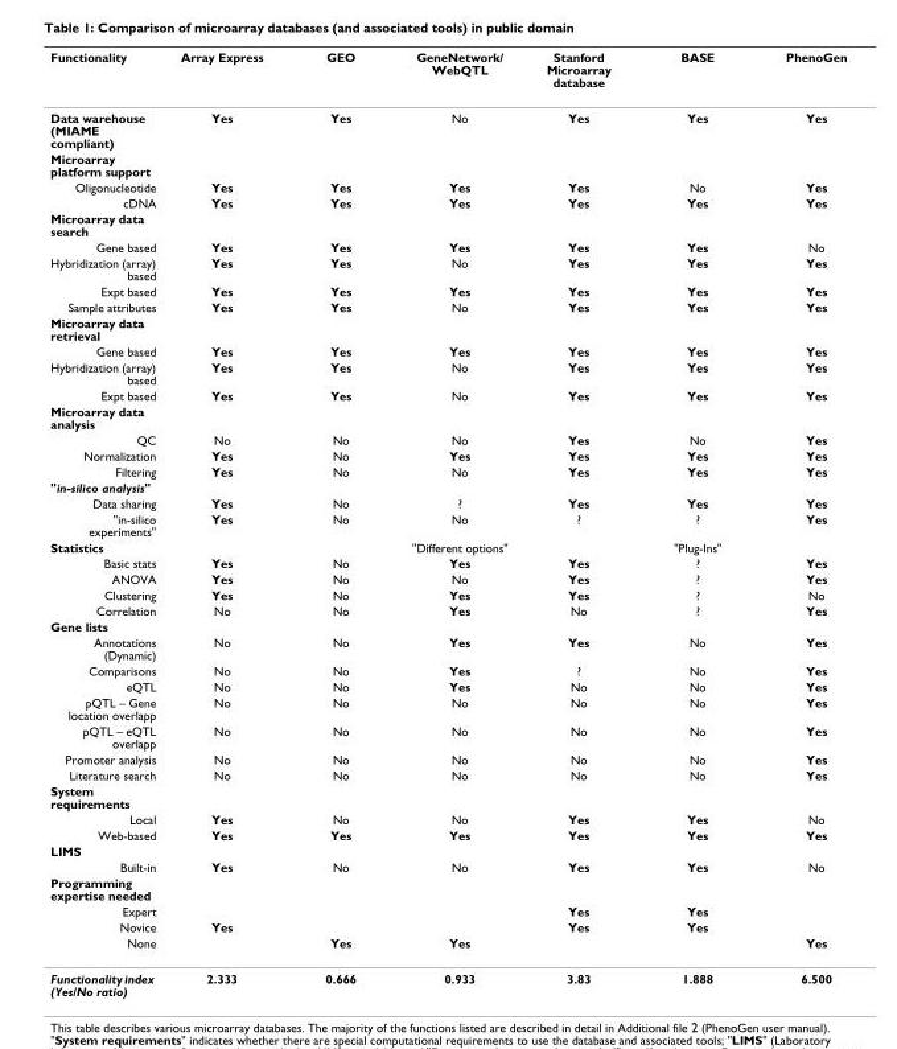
<table><thead><tr><td>Functionality</td><td>Array Express</td><td>GEO</td><td>GeneNetwork/ WebQTL</td><td>Stanford Microarray database</td><td>BASE</td><td>PhenoGen</td></tr></thead><tbody><tr><td>Data warehouse (MIAME compliant)</td><td>Yes</td><td>Yes</td><td>No</td><td>Yes</td><td>Yes</td><td>Yes</td></tr><tr><td colspan="7">Microarray platform support</td></tr><tr><td>Oligonucleotide</td><td>Yes</td><td>Yes</td><td>Yes</td><td>Yes</td><td>No</td><td>Yes</td></tr><tr><td>cDNA</td><td>Yes</td><td>Yes</td><td>Yes</td><td>Yes</td><td>Yes</td><td>Yes</td></tr><tr><td colspan="7">Microarray data search</td></tr><tr><td>Gene based</td><td>Yes</td><td>Yes</td><td>Yes</td><td>Yes</td><td>Yes</td><td>No</td></tr><tr><td>Hybridization (array) based</td><td>Yes</td><td>Yes</td><td>No</td><td>Yes</td><td>Yes</td><td>Yes</td></tr><tr><td>Expt based</td><td>Yes</td><td>Yes</td><td>Yes</td><td>Yes</td><td>Yes</td><td>Yes</td></tr><tr><td>Sample attributes</td><td>Yes</td><td>Yes</td><td>No</td><td>Yes</td><td>Yes</td><td>Yes</td></tr><tr><td colspan="7">Microarray data retrieval</td></tr><tr><td>Gene based</td><td>Yes</td><td>Yes</td><td>Yes</td><td>Yes</td><td>Yes</td><td>Yes</td></tr><tr><td>Hybridization (array) based</td><td>Yes</td><td>Yes</td><td>No</td><td>Yes</td><td>Yes</td><td>Yes</td></tr><tr><td>Expt based</td><td>Yes</td><td>Yes</td><td>No</td><td>Yes</td><td>Yes</td><td>Yes</td></tr><tr><td colspan="7">Microarray data analysis</td></tr><tr><td>QC</td><td>No</td><td>No</td><td>No</td><td>Yes</td><td>No</td><td>Yes</td></tr><tr><td>Normalization</td><td>Yes</td><td>No</td><td>Yes</td><td>Yes</td><td>Yes</td><td>Yes</td></tr><tr><td>Filtering</td><td>Yes</td><td>No</td><td>No</td><td>Yes</td><td>Yes</td><td>Yes</td></tr><tr><td colspan="7">&quot;in-silico analysis&quot;</td></tr><tr><td>Data sharing</td><td>Yes</td><td>No</td><td>?</td><td>Yes</td><td>Yes</td><td>Yes</td></tr><tr><td>&quot;in-silico experiments&quot;</td><td>Yes</td><td>No</td><td>No</td><td>?</td><td>?</td><td>Yes</td></tr><tr><td>Statistics</td><td></td><td></td><td>&quot;Different options&quot;</td><td></td><td>&quot;Plug-Ins&quot;</td><td></td></tr><tr><td>Basic stats</td><td>Yes</td><td>No</td><td>Yes</td><td>Yes</td><td>?</td><td>Yes</td></tr><tr><td>ANOVA</td><td>Yes</td><td>No</td><td>No</td><td>Yes</td><td>?</td><td>Yes</td></tr><tr><td>Clustering</td><td>Yes</td><td>No</td><td>Yes</td><td>Yes</td><td>?</td><td>No</td></tr><tr><td>Correlation</td><td>No</td><td>No</td><td>Yes</td><td>No</td><td>?</td><td>Yes</td></tr><tr><td colspan="7">Gene lists</td></tr><tr><td>Annotations (Dynamic)</td><td>No</td><td>No</td><td>Yes</td><td>Yes</td><td>No</td><td>Yes</td></tr><tr><td>Comparisons</td><td>No</td><td>No</td><td>Yes</td><td>?</td><td>No</td><td>Yes</td></tr><tr><td>eQTL</td><td>No</td><td>No</td><td>Yes</td><td>No</td><td>No</td><td>Yes</td></tr><tr><td>pQTL – Gene location overlapp</td><td>No</td><td>No</td><td>No</td><td>No</td><td>No</td><td>Yes</td></tr><tr><td>pQTL – eQTL overlapp</td><td>No</td><td>No</td><td>No</td><td>No</td><td>No</td><td>Yes</td></tr><tr><td>Promoter analysis</td><td>No</td><td>No</td><td>No</td><td>No</td><td>No</td><td>Yes</td></tr><tr><td>Literature search</td><td>No</td><td>No</td><td>No</td><td>No</td><td>No</td><td>Yes</td></tr><tr><td colspan="7">System requirements</td></tr><tr><td>Local</td><td>Yes</td><td>No</td><td>No</td><td>Yes</td><td>Yes</td><td>No</td></tr><tr><td>Web-based</td><td>Yes</td><td>Yes</td><td>Yes</td><td>Yes</td><td>Yes</td><td>Yes</td></tr><tr><td colspan="7">LIMS</td></tr><tr><td>Built-in</td><td>Yes</td><td>No</td><td>No</td><td>Yes</td><td>Yes</td><td>No</td></tr><tr><td colspan="7">Programming expertise needed</td></tr><tr><td>Expert</td><td></td><td></td><td></td><td>Yes</td><td>Yes</td><td></td></tr><tr><td>Novice</td><td>Yes</td><td></td><td></td><td>Yes</td><td>Yes</td><td></td></tr><tr><td>None</td><td></td><td>Yes</td><td>Yes</td><td></td><td></td><td>Yes</td></tr><tr><td>Functionality index (Yes/No ratio)</td><td>2.333</td><td>0.666</td><td>0.933</td><td>3.83</td><td>1.888</td><td>6.500</td></tr></tbody></table>